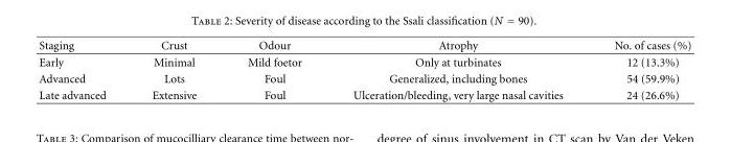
<table><thead><tr><td>Staging</td><td>Crust</td><td>Odour</td><td>Atrophy</td><td>No. of cases (%)</td></tr></thead><tbody><tr><td>Early</td><td>Minimal</td><td>Mild foetor</td><td>Only at turbinates</td><td>12 (13.3%)</td></tr><tr><td>Advanced</td><td>Lots</td><td>Foul</td><td>Generalized, including bones</td><td>54 (59.9%)</td></tr><tr><td>Late advanced</td><td>Extensive</td><td>Foul</td><td>Ulceration/bleeding, very large nasal cavities</td><td>24 (26.6%)</td></tr></tbody></table>